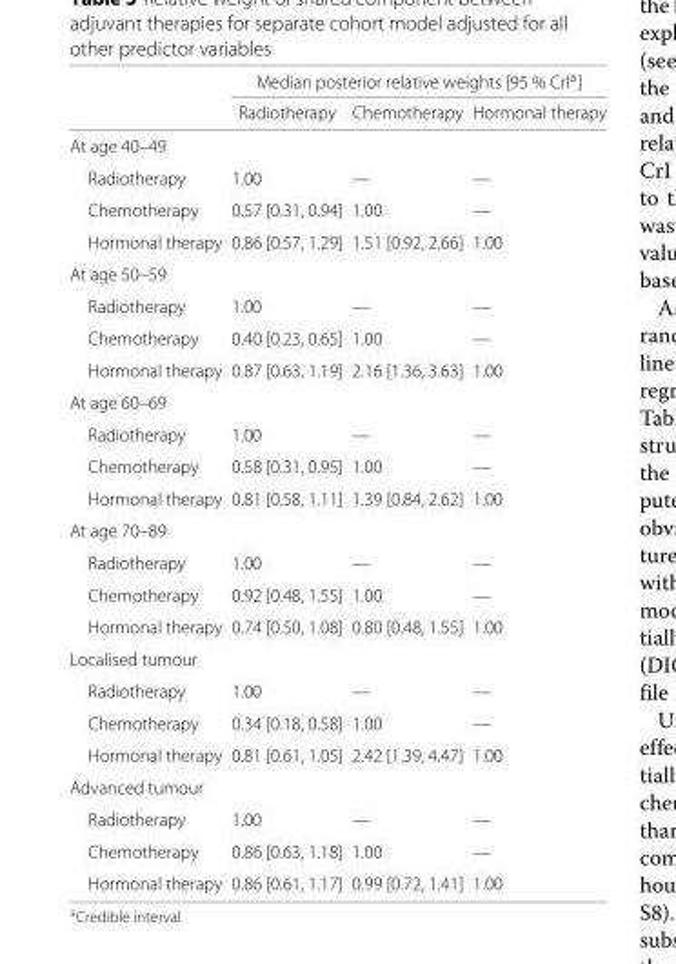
<table><thead><tr><td rowspan="2"></td><td colspan="3">Median posterior relative weights [95 % CrI<sup>a</sup>]</td></tr><tr><td>Radiotherapy</td><td>Chemotherapy</td><td>Hormonal therapy</td></tr></thead><tbody><tr><td colspan="4">At age 40–49</td></tr><tr><td>Radiotherapy</td><td>1.00</td><td>—</td><td>—</td></tr><tr><td>Chemotherapy</td><td>0.57 [0.31, 0.94]</td><td>1.00</td><td>—</td></tr><tr><td>Hormonal therapy</td><td>0.86 [0.57, 1.29]</td><td>1.51 [0.92, 2.66]</td><td>1.00</td></tr><tr><td colspan="4">At age 50–59</td></tr><tr><td>Radiotherapy</td><td>1.00</td><td>—</td><td>—</td></tr><tr><td>Chemotherapy</td><td>0.40 [0.23, 0.65]</td><td>1.00</td><td>—</td></tr><tr><td>Hormonal therapy</td><td>0.87 [0.63, 1.19]</td><td>2.16 [1.36, 3.63]</td><td>1.00</td></tr><tr><td colspan="4">At age 60–69</td></tr><tr><td>Radiotherapy</td><td>1.00</td><td>—</td><td>—</td></tr><tr><td>Chemotherapy</td><td>0.58 [0.31, 0.95]</td><td>1.00</td><td>—</td></tr><tr><td>Hormonal therapy</td><td>0.81 [0.58, 1.11]</td><td>1.39 [0.84, 2.62]</td><td>1.00</td></tr><tr><td colspan="4">At age 70–89</td></tr><tr><td>Radiotherapy</td><td>1.00</td><td>—</td><td>—</td></tr><tr><td>Chemotherapy</td><td>0.92 [0.48, 1.55]</td><td>1.00</td><td>—</td></tr><tr><td>Hormonal therapy</td><td>0.74 [0.50, 1.08]</td><td>0.80 [0.48, 1.55]</td><td>1.00</td></tr><tr><td colspan="4">Localised tumour</td></tr><tr><td>Radiotherapy</td><td>1.00</td><td>—</td><td>—</td></tr><tr><td>Chemotherapy</td><td>0.34 [0.18, 0.58]</td><td>1.00</td><td>—</td></tr><tr><td>Hormonal therapy</td><td>0.81 [0.61, 1.05]</td><td>2.42 [1.39, 4.47]</td><td>1.00</td></tr><tr><td colspan="4">Advanced tumour</td></tr><tr><td>Radiotherapy</td><td>1.00</td><td>—</td><td>—</td></tr><tr><td>Chemotherapy</td><td>0.86 [0.63, 1.18]</td><td>1.00</td><td>—</td></tr><tr><td>Hormonal therapy</td><td>0.86 [0.61, 1.17]</td><td>0.99 [0.72, 1.41]</td><td>1.00</td></tr></tbody></table>